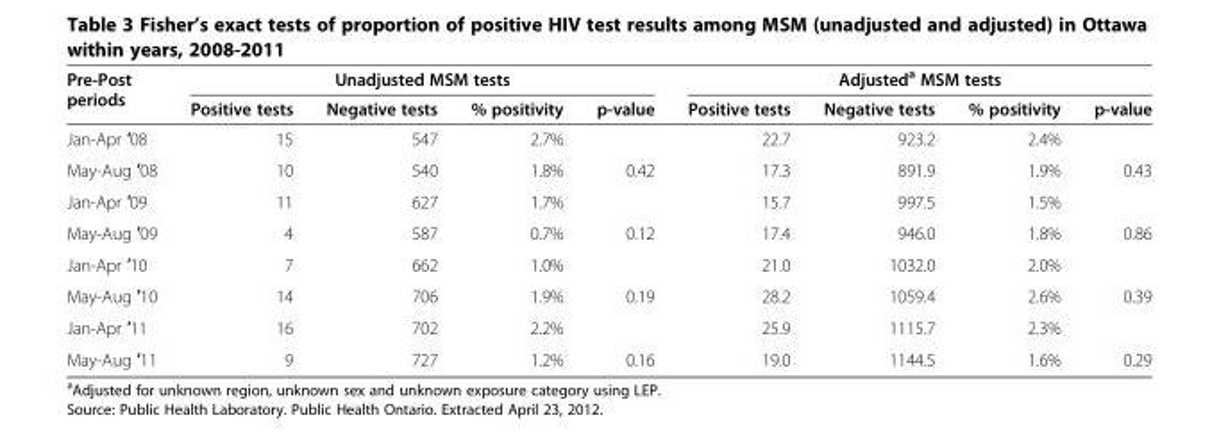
<table><thead><tr><td rowspan="2">Pre-Post periods</td><td colspan="4">Unadjusted MSM tests</td><td colspan="4">Adjusted<sup>a</sup> MSM tests</td></tr><tr><td>Positive tests</td><td>Negative tests</td><td>% positivity</td><td>p-value</td><td>Positive tests</td><td>Negative tests</td><td>% positivity</td><td>p-value</td></tr></thead><tbody><tr><td>Jan-Apr ′08</td><td>15</td><td>547</td><td>2.7%</td><td></td><td>22.7</td><td>923.2</td><td>2.4%</td><td></td></tr><tr><td>May-Aug ′08</td><td>10</td><td>540</td><td>1.8%</td><td>0.42</td><td>17.3</td><td>891.9</td><td>1.9%</td><td>0.43</td></tr><tr><td>Jan-Apr ′09</td><td>11</td><td>627</td><td>1.7%</td><td></td><td>15.7</td><td>997.5</td><td>1.5%</td><td></td></tr><tr><td>May-Aug ′09</td><td>4</td><td>587</td><td>0.7%</td><td>0.12</td><td>17.4</td><td>946.0</td><td>1.8%</td><td>0.86</td></tr><tr><td>Jan-Apr ′10</td><td>7</td><td>662</td><td>1.0%</td><td></td><td>21.0</td><td>1032.0</td><td>2.0%</td><td></td></tr><tr><td>May-Aug ′10</td><td>14</td><td>706</td><td>1.9%</td><td>0.19</td><td>28.2</td><td>1059.4</td><td>2.6%</td><td>0.39</td></tr><tr><td>Jan-Apr ′11</td><td>16</td><td>702</td><td>2.2%</td><td></td><td>25.9</td><td>1115.7</td><td>2.3%</td><td></td></tr><tr><td>May-Aug ′11</td><td>9</td><td>727</td><td>1.2%</td><td>0.16</td><td>19.0</td><td>1144.5</td><td>1.6%</td><td>0.29</td></tr></tbody></table>